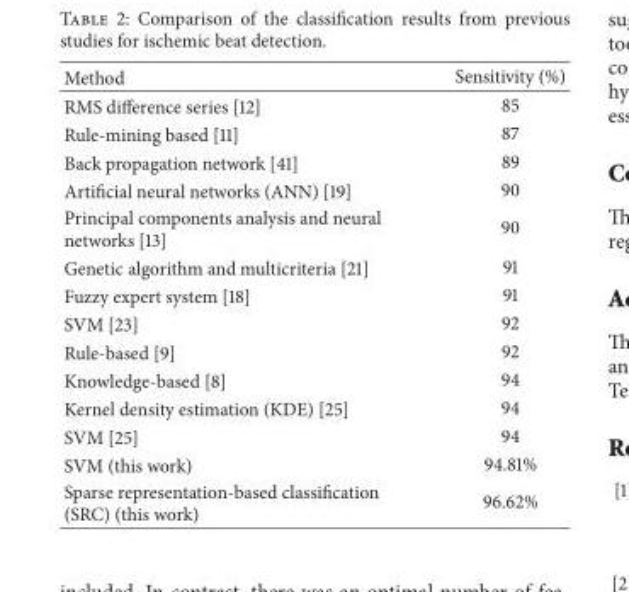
<table><thead><tr><td>Method</td><td>Sensitivity (%)</td></tr></thead><tbody><tr><td>RMS difference series [12]</td><td>85</td></tr><tr><td>Rule-mining based [11]</td><td>87</td></tr><tr><td>Back propagation network [41]</td><td>89</td></tr><tr><td>Artificial neural networks (ANN) [19]</td><td>90</td></tr><tr><td>Principal components analysis and neural networks [13]</td><td>90</td></tr><tr><td>Genetic algorithm and multicriteria [21]</td><td>91</td></tr><tr><td>Fuzzy expert system [18]</td><td>91</td></tr><tr><td>SVM [23]</td><td>92</td></tr><tr><td>Rule-based [9]</td><td>92</td></tr><tr><td>Knowledge-based [8]</td><td>94</td></tr><tr><td>Kernel density estimation (KDE) [25]</td><td>94</td></tr><tr><td>SVM [25]</td><td>94</td></tr><tr><td>SVM (this work)</td><td>94.81%</td></tr><tr><td>Sparse representation-based classification (SRC) (this work)</td><td>96.62%</td></tr></tbody></table>